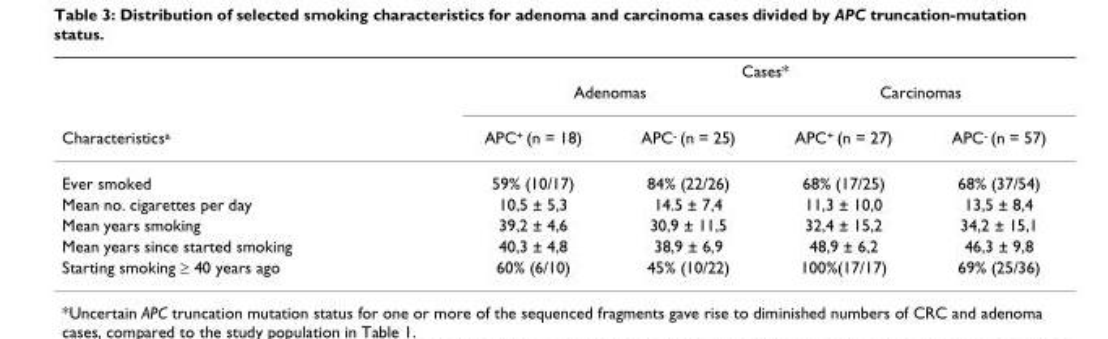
<table><thead><tr><td rowspan="3">Characteristicsa</td><td colspan="4">Cases*</td></tr><tr><td colspan="2">Adenomas</td><td colspan="2">Carcinomas</td></tr><tr><td>APC+ (n = 18)</td><td>APC- (n = 25)</td><td>APC+ (n = 27)</td><td>APC- (n = 57)</td></tr></thead><tbody><tr><td>Ever smoked</td><td>59% (10/17)</td><td>84% (22/26)</td><td>68% (17/25)</td><td>68% (37/54)</td></tr><tr><td>Mean no. cigarettes per day</td><td>10,5 ± 5,3</td><td>14.5 ± 7,4</td><td>11,3 ± 10,0</td><td>13,5 ± 8,4</td></tr><tr><td>Mean years smoking</td><td>39,2 ± 4,6</td><td>30,9 ± 11,5</td><td>32,4 ± 15,2</td><td>34,2 ± 15,1</td></tr><tr><td>Mean years since started smoking</td><td>40,3 ± 4,8</td><td>38,9 ± 6,9</td><td>48,9 ± 6,2</td><td>46,3 ± 9,8</td></tr><tr><td>Starting smoking ≥ 40 years ago</td><td>60% (6/10)</td><td>45% (10/22)</td><td>100%(17/17)</td><td>69% (25/36)</td></tr></tbody></table>